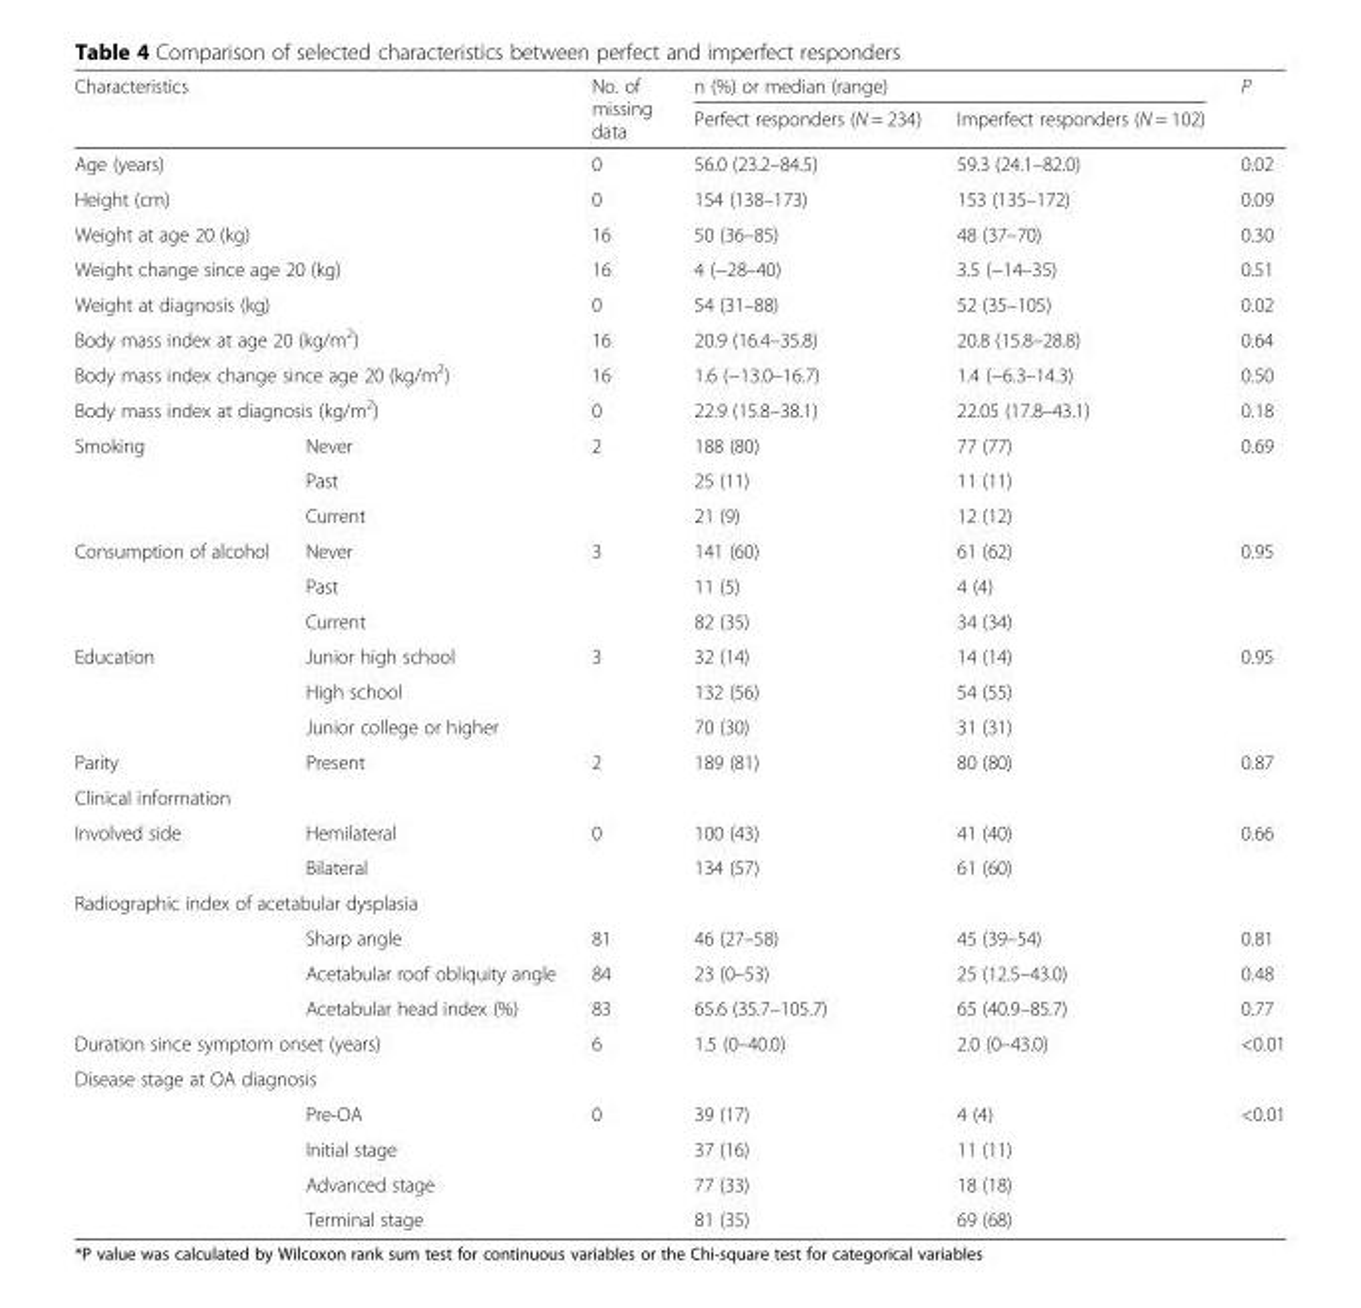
<table><thead><tr><td rowspan="2" colspan="2">Characteristics</td><td rowspan="2">No. of missing data</td><td colspan="2">n (%) or median (range)</td><td rowspan="2">P</td></tr><tr><td>Perfect responders (N = 234)</td><td>Imperfect responders (N = 102)</td></tr></thead><tbody><tr><td colspan="2">Age (years)</td><td>0</td><td>56.0 (23.2–84.5)</td><td>59.3 (24.1–82.0)</td><td>0.02</td></tr><tr><td colspan="2">Height (cm)</td><td>0</td><td>154 (138–173)</td><td>153 (135–172)</td><td>0.09</td></tr><tr><td colspan="2">Weight at age 20 (kg)</td><td>16</td><td>50 (36–85)</td><td>48 (37–70)</td><td>0.30</td></tr><tr><td colspan="2">Weight change since age 20 (kg)</td><td>16</td><td>4 (−28–40)</td><td>3.5 (−14–35)</td><td>0.51</td></tr><tr><td colspan="2">Weight at diagnosis (kg)</td><td>0</td><td>54 (31–88)</td><td>52 (35–105)</td><td>0.02</td></tr><tr><td colspan="2">Body mass index at age 20 (kg/m<sup>2</sup>)</td><td>16</td><td>20.9 (16.4–35.8)</td><td>20.8 (15.8–28.8)</td><td>0.64</td></tr><tr><td colspan="2">Body mass index change since age 20 (kg/m<sup>2</sup>)</td><td>16</td><td>1.6 (−13.0–16.7)</td><td>1.4 (−6.3–14.3)</td><td>0.50</td></tr><tr><td colspan="2">Body mass index at diagnosis (kg/m<sup>2</sup>)</td><td>0</td><td>22.9 (15.8–38.1)</td><td>22.05 (17.8–43.1)</td><td>0.18</td></tr><tr><td rowspan="3">Smoking</td><td>Never</td><td>2</td><td>188 (80)</td><td>77 (77)</td><td>0.69</td></tr><tr><td>Past</td><td></td><td>25 (11)</td><td>11 (11)</td><td></td></tr><tr><td>Current</td><td></td><td>21 (9)</td><td>12 (12)</td><td></td></tr><tr><td rowspan="3">Consumption of alcohol</td><td>Never</td><td>3</td><td>141 (60)</td><td>61 (62)</td><td>0.95</td></tr><tr><td>Past</td><td></td><td>11 (5)</td><td>4 (4)</td><td></td></tr><tr><td>Current</td><td></td><td>82 (35)</td><td>34 (34)</td><td></td></tr><tr><td rowspan="3">Education</td><td>Junior high school</td><td>3</td><td>32 (14)</td><td>14 (14)</td><td>0.95</td></tr><tr><td>High school</td><td></td><td>132 (56)</td><td>54 (55)</td><td></td></tr><tr><td>Junior college or higher</td><td></td><td>70 (30)</td><td>31 (31)</td><td></td></tr><tr><td>Parity</td><td>Present</td><td>2</td><td>189 (81)</td><td>80 (80)</td><td>0.87</td></tr><tr><td colspan="6">Clinical information</td></tr><tr><td rowspan="2">Involved side</td><td>Hemilateral</td><td>0</td><td>100 (43)</td><td>41 (40)</td><td>0.66</td></tr><tr><td>Bilateral</td><td></td><td>134 (57)</td><td>61 (60)</td><td></td></tr><tr><td colspan="6">Radiographic index of acetabular dysplasia</td></tr><tr><td></td><td>Sharp angle</td><td>81</td><td>46 (27–58)</td><td>45 (39–54)</td><td>0.81</td></tr><tr><td></td><td>Acetabular roof obliquity angle</td><td>84</td><td>23 (0–53)</td><td>25 (12.5–43.0)</td><td>0.48</td></tr><tr><td></td><td>Acetabular head index (%)</td><td>83</td><td>65.6 (35.7–105.7)</td><td>65 (40.9–85.7)</td><td>0.77</td></tr><tr><td colspan="2">Duration since symptom onset (years)</td><td>6</td><td>1.5 (0–40.0)</td><td>2.0 (0–43.0)</td><td>&lt;0.01</td></tr><tr><td colspan="6">Disease stage at OA diagnosis</td></tr><tr><td></td><td>Pre-OA</td><td>0</td><td>39 (17)</td><td>4 (4)</td><td>&lt;0.01</td></tr><tr><td></td><td>Initial stage</td><td></td><td>37 (16)</td><td>11 (11)</td><td></td></tr><tr><td></td><td>Advanced stage</td><td></td><td>77 (33)</td><td>18 (18)</td><td></td></tr><tr><td></td><td>Terminal stage</td><td></td><td>81 (35)</td><td>69 (68)</td><td></td></tr></tbody></table>